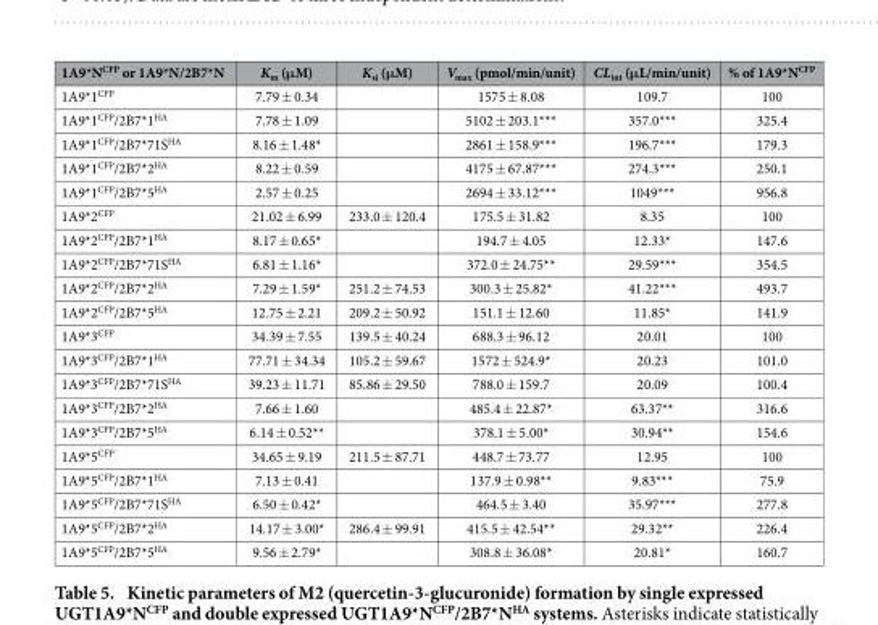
<table><thead><tr><td>1A9*N<sup>CFP</sup> or 1A9*N/2B7*N</td><td>K<sub>m</sub> (μM)</td><td>K<sub>si</sub> (μM)</td><td>V<sub>max</sub> (pmol/min/unit)</td><td>CL<sub>int</sub> (μL/min/unit)</td><td>% of 1A9*N<sup>CFP</sup></td></tr></thead><tbody><tr><td>1A9*1<sup>CFP</sup></td><td>7.79 ± 0.34</td><td></td><td>1575 ± 8.08</td><td>109.7</td><td>100</td></tr><tr><td>1A9*1<sup>CFP</sup>/2B7*1<sup>HA</sup></td><td>7.78 ± 1.09</td><td></td><td>5102 ± 203.1***</td><td>357.0***</td><td>325.4</td></tr><tr><td>1A9*1<sup>CFP</sup>/2B7*71S<sup>HA</sup></td><td>8.16 ± 1.48*</td><td></td><td>2861 ± 158.9***</td><td>196.7***</td><td>179.3</td></tr><tr><td>1A9*1<sup>CFP</sup>/2B7*2<sup>HA</sup></td><td>8.22 ± 0.59</td><td></td><td>4175 ± 67.87***</td><td>274.3***</td><td>250.1</td></tr><tr><td>1A9*1<sup>CFP</sup>/2B7*5<sup>HA</sup></td><td>2.57 ± 0.25</td><td></td><td>2694 ± 33.12***</td><td>1049***</td><td>956.8</td></tr><tr><td>1A9*2<sup>CFP</sup></td><td>21.02 ± 6.99</td><td>233.0 ± 120.4</td><td>175.5 ± 31.82</td><td>8.35</td><td>100</td></tr><tr><td>1A9*2<sup>CFP</sup>/2B7*1<sup>HA</sup></td><td>8.17 ± 0.65*</td><td></td><td>194.7 ± 4.05</td><td>12.33*</td><td>147.6</td></tr><tr><td>1A9*2<sup>CFP</sup>/2B7*71S<sup>HA</sup></td><td>6.81 ± 1.16*</td><td></td><td>372.0 ± 24.75**</td><td>29.59***</td><td>354.5</td></tr><tr><td>1A9*2<sup>CFP</sup>/2B7*2<sup>HA</sup></td><td>7.29 ± 1.59*</td><td>251.2 ± 74.53</td><td>300.3 ± 25.82*</td><td>41.22***</td><td>493.7</td></tr><tr><td>1A9*2<sup>CFP</sup>/2B7*5<sup>HA</sup></td><td>12.75 ± 2.21</td><td>209.2 ± 50.92</td><td>151.1 ± 12.60</td><td>11.85*</td><td>141.9</td></tr><tr><td>1A9*3<sup>CFP</sup></td><td>34.39 ± 7.55</td><td>139.5 ± 40.24</td><td>688.3 ± 96.12</td><td>20.01</td><td>100</td></tr><tr><td>1A9*3<sup>CFP</sup>/2B7*1<sup>HA</sup></td><td>77.71 ± 34.34</td><td>105.2 ± 59.67</td><td>1572 ± 524.9*</td><td>20.23</td><td>101.0</td></tr><tr><td>1A9*3<sup>CFP</sup>/2B7*71S<sup>HA</sup></td><td>39.23 ± 11.71</td><td>85.86 ± 29.50</td><td>788.0 ± 159.7</td><td>20.09</td><td>100.4</td></tr><tr><td>1A9*3<sup>CFP</sup>/2B7*2<sup>HA</sup></td><td>7.66 ± 1.60</td><td></td><td>485.4 ± 22.87*</td><td>63.37**</td><td>316.6</td></tr><tr><td>1A9*3<sup>CFP</sup>/2B7*5<sup>HA</sup></td><td>6.14 ± 0.52**</td><td></td><td>378.1 ± 5.00*</td><td>30.94**</td><td>154.6</td></tr><tr><td>1A9*5<sup>CFP</sup></td><td>34.65 ± 9.19</td><td>211.5 ± 87.71</td><td>448.7 ± 73.77</td><td>12.95</td><td>100</td></tr><tr><td>1A9*5<sup>CFP</sup>/2B7*1<sup>HA</sup></td><td>7.13 ± 0.41</td><td></td><td>137.9 ± 0.98**</td><td>9.83***</td><td>75.9</td></tr><tr><td>1A9*5<sup>CFP</sup>/2B7*71S<sup>HA</sup></td><td>6.50 ± 0.42*</td><td></td><td>464.5 ± 3.40</td><td>35.97***</td><td>277.8</td></tr><tr><td>1A9*5<sup>CFP</sup>/2B7*2<sup>HA</sup></td><td>14.17 ± 3.00*</td><td>286.4 ± 99.91</td><td>415.5 ± 42.54**</td><td>29.32**</td><td>226.4</td></tr><tr><td>1A9*5<sup>CFP</sup>/2B7*5<sup>HA</sup></td><td>9.56 ± 2.79*</td><td></td><td>308.8 ± 36.08*</td><td>20.81*</td><td>160.7</td></tr></tbody></table>